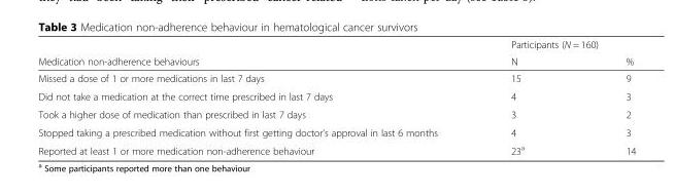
<table><thead><tr><td rowspan="2">Medication non-adherence behaviours</td><td colspan="2">Participants (N = 160)</td></tr><tr><td>N</td><td>%</td></tr></thead><tbody><tr><td>Missed a dose of 1 or more medications in last 7 days</td><td>15</td><td>9</td></tr><tr><td>Did not take a medication at the correct time prescribed in last 7 days</td><td>4</td><td>3</td></tr><tr><td>Took a higher dose of medication than prescribed in last 7 days</td><td>3</td><td>2</td></tr><tr><td>Stopped taking a prescribed medication without first getting doctor’s approval in last 6 months</td><td>4</td><td>3</td></tr><tr><td>Reported at least 1 or more medication non-adherence behaviour</td><td>23<sup>a</sup></td><td>14</td></tr></tbody></table>